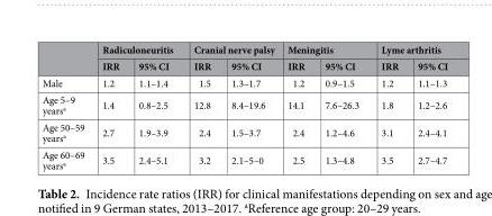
<table><thead><tr><td rowspan="2"></td><td colspan="2">Radiculoneuritis</td><td colspan="2">Cranial nerve palsy</td><td colspan="2">Meningitis</td><td colspan="2">Lyme arthritis</td></tr><tr><td>IRR</td><td>95% CI</td><td>IRR</td><td>95% CI</td><td>IRR</td><td>95% CI</td><td>IRR</td><td>95% CI</td></tr></thead><tbody><tr><td>Male</td><td>1.2</td><td>1.1–1.4</td><td>1.5</td><td>1.3–1.7</td><td>1.2</td><td>0.9–1.5</td><td>1.2</td><td>1.1–1.3</td></tr><tr><td>Age 5–9 years<sup>a</sup></td><td>1.4</td><td>0.8–2.5</td><td>12.8</td><td>8.4–19.6</td><td>14.1</td><td>7.6–26.3</td><td>1.8</td><td>1.2–2.6</td></tr><tr><td>Age 50–59 years<sup>a</sup></td><td>2.7</td><td>1.9–3.9</td><td>2.4</td><td>1.5–3.7</td><td>2.4</td><td>1.2–4.6</td><td>3.1</td><td>2.4–4.1</td></tr><tr><td>Age 60–69 years<sup>a</sup></td><td>3.5</td><td>2.4–5.1</td><td>3.2</td><td>2.1–5–0</td><td>2.5</td><td>1.3–4.8</td><td>3.5</td><td>2.7–4.7</td></tr></tbody></table>